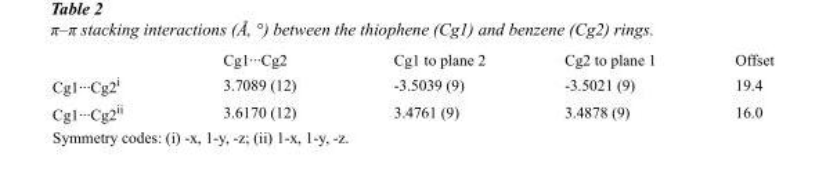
<table><thead><tr><td></td><td>Cg1···Cg2</td><td>Cg1 to plane 2</td><td>Cg2 to plane 1</td><td>Offset</td></tr></thead><tbody><tr><td>Cg1···Cg2<sup>i</sup></td><td>3.7089 (12)</td><td>-3.5039 (9)</td><td>-3.5021 (9)</td><td>19.4</td></tr><tr><td>Cg1···Cg2<sup>ii</sup></td><td>3.6170 (12)</td><td>3.4761 (9)</td><td>3.4878 (9)</td><td>16.0</td></tr></tbody></table>